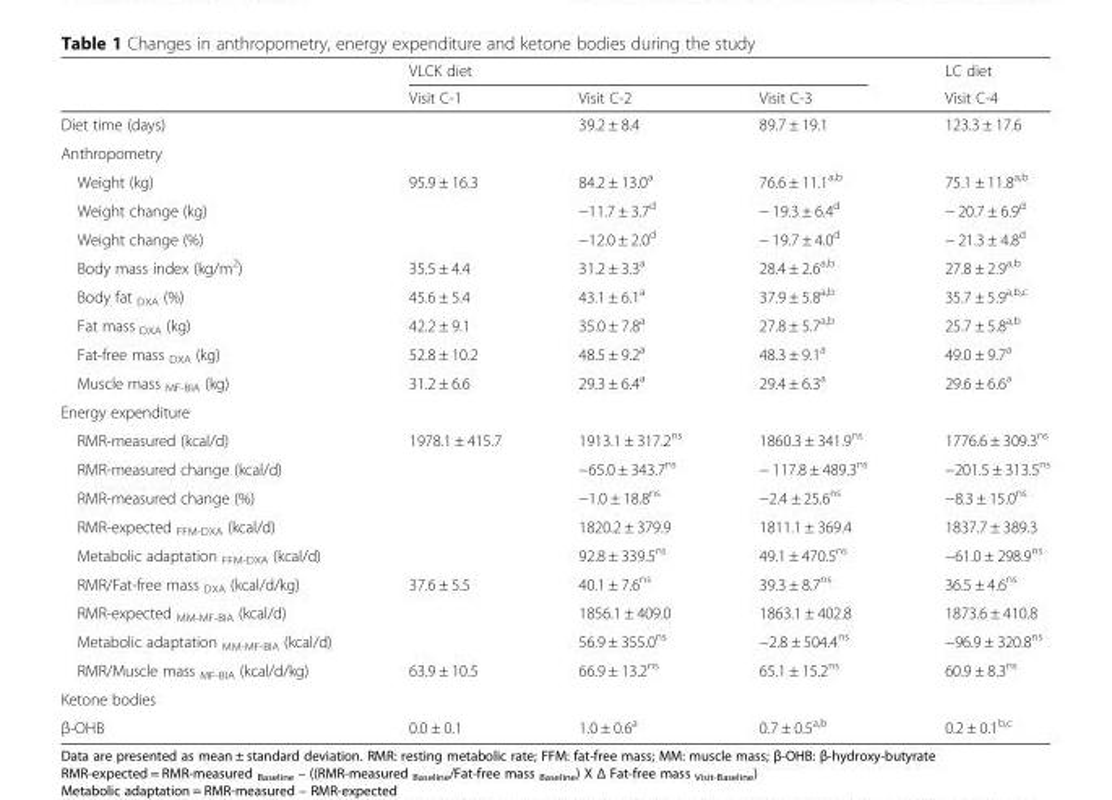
<table><thead><tr><td rowspan="2"></td><td colspan="3">VLCK diet</td><td rowspan="2">LC diet Visit C-4</td></tr><tr><td>Visit C-1</td><td>Visit C-2</td><td>Visit C-3</td></tr></thead><tbody><tr><td>Diet time (days)</td><td></td><td>39.2 ± 8.4</td><td>89.7 ± 19.1</td><td>123.3 ± 17.6</td></tr><tr><td colspan="5">Anthropometry</td></tr><tr><td>Weight (kg)</td><td>95.9 ± 16.3</td><td>84.2 ± 13.0<sup>a</sup></td><td>76.6 ± 11.1<sup>a,b</sup></td><td>75.1 ± 11.8<sup>a,b</sup></td></tr><tr><td>Weight change (kg)</td><td></td><td>−11.7 ± 3.7<sup>d</sup></td><td>− 19.3 ± 6.4<sup>d</sup></td><td>− 20.7 ± 6.9<sup>d</sup></td></tr><tr><td>Weight change (%)</td><td></td><td>−12.0 ± 2.0<sup>d</sup></td><td>− 19.7 ± 4.0<sup>d</sup></td><td>− 21.3 ± 4.8<sup>d</sup></td></tr><tr><td>Body mass index (kg/m<sup>2</sup>)</td><td>35.5 ± 4.4</td><td>31.2 ± 3.3<sup>a</sup></td><td>28.4 ± 2.6<sup>a,b</sup></td><td>27.8 ± 2.9<sup>a,b</sup></td></tr><tr><td>Body fat <sub>DXA</sub> (%)</td><td>45.6 ± 5.4</td><td>43.1 ± 6.1<sup>a</sup></td><td>37.9 ± 5.8<sup>a,b</sup></td><td>35.7 ± 5.9<sup>a,b,c</sup></td></tr><tr><td>Fat mass <sub>DXA</sub> (kg)</td><td>42.2 ± 9.1</td><td>35.0 ± 7.8<sup>a</sup></td><td>27.8 ± 5.7<sup>a,b</sup></td><td>25.7 ± 5.8<sup>a,b</sup></td></tr><tr><td>Fat-free mass <sub>DXA</sub> (kg)</td><td>52.8 ± 10.2</td><td>48.5 ± 9.2<sup>a</sup></td><td>48.3 ± 9.1<sup>a</sup></td><td>49.0 ± 9.7<sup>a</sup></td></tr><tr><td>Muscle mass <sub>MF-BIA</sub> (kg)</td><td>31.2 ± 6.6</td><td>29.3 ± 6.4<sup>a</sup></td><td>29.4 ± 6.3<sup>a</sup></td><td>29.6 ± 6.6<sup>a</sup></td></tr><tr><td colspan="5">Energy expenditure</td></tr><tr><td>RMR-measured (kcal/d)</td><td>1978.1 ± 415.7</td><td>1913.1 ± 317.2<sup>ns</sup></td><td>1860.3 ± 341.9<sup>ns</sup></td><td>1776.6 ± 309.3<sup>ns</sup></td></tr><tr><td>RMR-measured change (kcal/d)</td><td></td><td>−65.0 ± 343.7<sup>ns</sup></td><td>− 117.8 ± 489.3<sup>ns</sup></td><td>−201.5 ± 313.5<sup>ns</sup></td></tr><tr><td>RMR-measured change (%)</td><td></td><td>−1.0 ± 18.8<sup>ns</sup></td><td>−2.4 ± 25.6<sup>ns</sup></td><td>−8.3 ± 15.0<sup>ns</sup></td></tr><tr><td>RMR-expected <sub>FFM-DXA</sub> (kcal/d)</td><td></td><td>1820.2 ± 379.9</td><td>1811.1 ± 369.4</td><td>1837.7 ± 389.3</td></tr><tr><td>Metabolic adaptation <sub>FFM-DXA</sub> (kcal/d)</td><td></td><td>92.8 ± 339.5<sup>ns</sup></td><td>49.1 ± 470.5<sup>ns</sup></td><td>−61.0 ± 298.9<sup>ns</sup></td></tr><tr><td>RMR/Fat-free mass <sub>DXA</sub> (kcal/d/kg)</td><td>37.6 ± 5.5</td><td>40.1 ± 7.6<sup>ns</sup></td><td>39.3 ± 8.7<sup>ns</sup></td><td>36.5 ± 4.6<sup>ns</sup></td></tr><tr><td>RMR-expected <sub>MM-MF-BIA</sub> (kcal/d)</td><td></td><td>1856.1 ± 409.0</td><td>1863.1 ± 402.8</td><td>1873.6 ± 410.8</td></tr><tr><td>Metabolic adaptation <sub>MM-MF-BIA</sub> (kcal/d)</td><td></td><td>56.9 ± 355.0<sup>ns</sup></td><td>−2.8 ± 504.4<sup>ns</sup></td><td>−96.9 ± 320.8<sup>ns</sup></td></tr><tr><td>RMR/Muscle mass <sub>MF-BIA</sub> (kcal/d/kg)</td><td>63.9 ± 10.5</td><td>66.9 ± 13.2<sup>ns</sup></td><td>65.1 ± 15.2<sup>ns</sup></td><td>60.9 ± 8.3<sup>ns</sup></td></tr><tr><td colspan="5">Ketone bodies</td></tr><tr><td>β-OHB</td><td>0.0 ± 0.1</td><td>1.0 ± 0.6<sup>a</sup></td><td>0.7 ± 0.5<sup>a,b</sup></td><td>0.2 ± 0.1<sup>b,c</sup></td></tr></tbody></table>